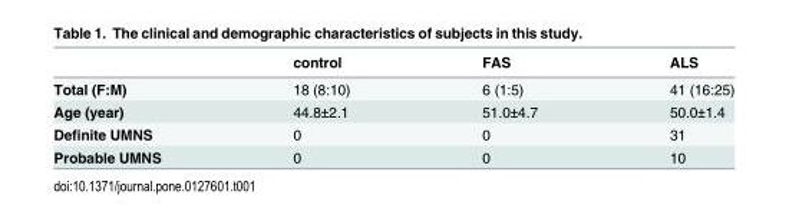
<table><thead><tr><td></td><td>control</td><td>FAS</td><td>ALS</td></tr></thead><tbody><tr><td>Total (F:M)</td><td>18 (8:10)</td><td>6 (1:5)</td><td>41 (16:25)</td></tr><tr><td>Age (year)</td><td>44.8±2.1</td><td>51.0±4.7</td><td>50.0±1.4</td></tr><tr><td>Definite UMNS</td><td>0</td><td>0</td><td>31</td></tr><tr><td>Probable UMNS</td><td>0</td><td>0</td><td>10</td></tr></tbody></table>